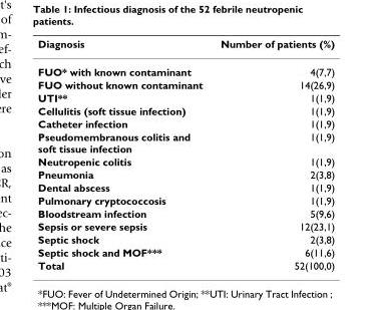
<table><thead><tr><td>Diagnosis</td><td>Number of patients (%)</td></tr></thead><tbody><tr><td>FUO* with known contaminant</td><td>4(7,7)</td></tr><tr><td>FUO without known contaminant</td><td>14(26,9)</td></tr><tr><td>UTI**</td><td>1(1,9)</td></tr><tr><td>Cellulitis (soft tissue infection)</td><td>1(1,9)</td></tr><tr><td>Catheter infection</td><td>1(1,9)</td></tr><tr><td>Pseudomembranous colitis and soft tissue infection</td><td>1(1,9)</td></tr><tr><td>Neutropenic colitis</td><td>1(1,9)</td></tr><tr><td>Pneumonia</td><td>2(3,8)</td></tr><tr><td>Dental abscess</td><td>1(1,9)</td></tr><tr><td>Pulmonary cryptococcosis</td><td>1(1,9)</td></tr><tr><td>Bloodstream infection</td><td>5(9,6)</td></tr><tr><td>Sepsis or severe sepsis</td><td>12(23,1)</td></tr><tr><td>Septic shock</td><td>2(3,8)</td></tr><tr><td>Septic shock and MOF***</td><td>6(11,6)</td></tr><tr><td>Total</td><td>52(100,0)</td></tr></tbody></table>